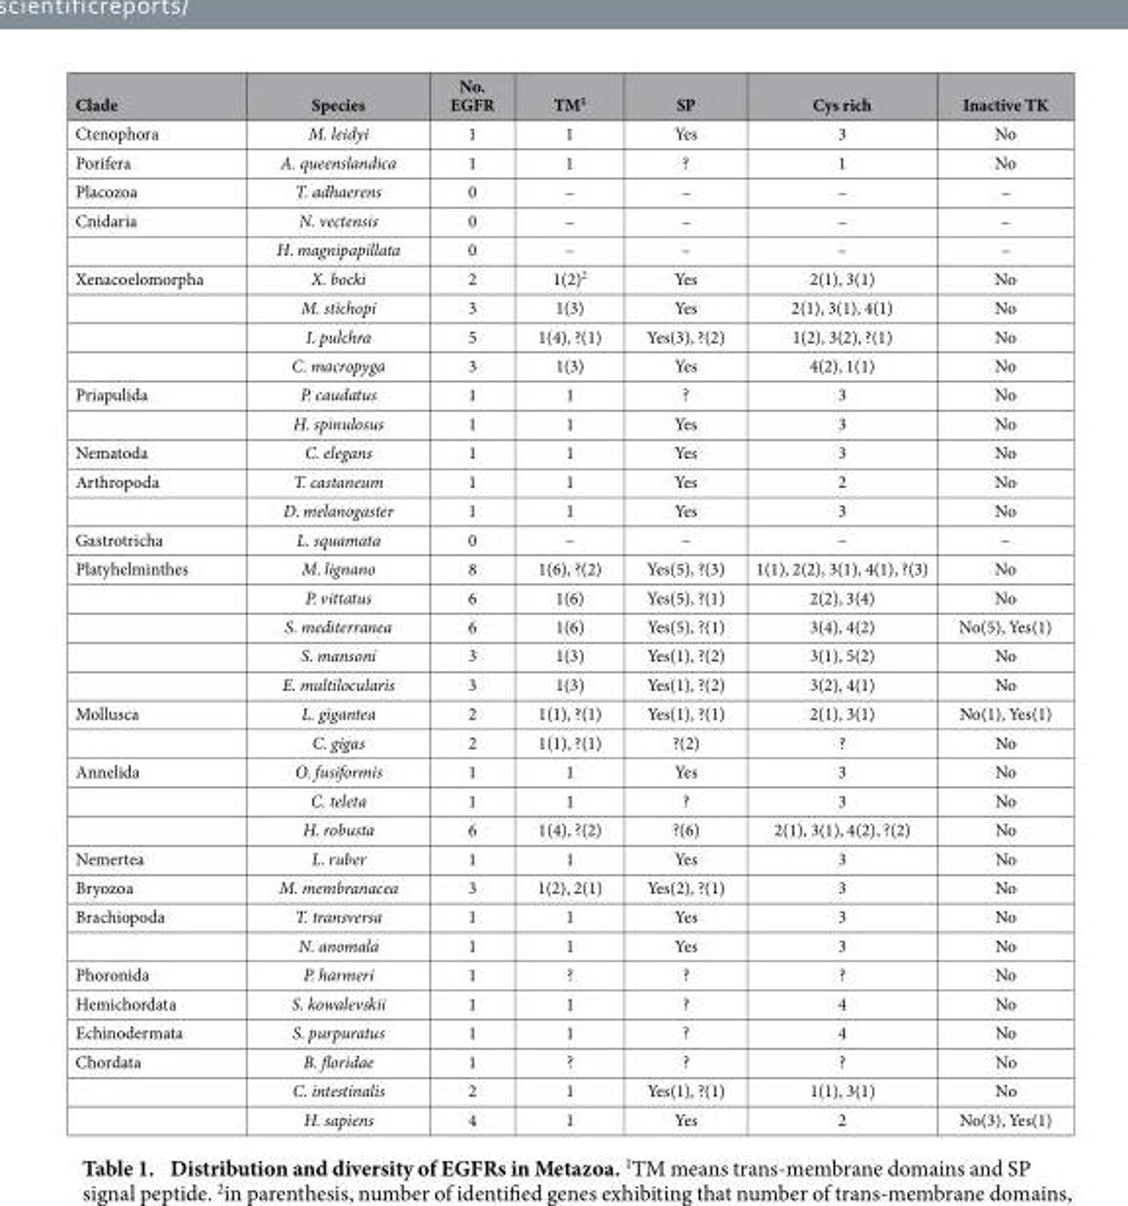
<table><thead><tr><td>Clade</td><td>Species</td><td>No. EGFR</td><td>TM<sup>1</sup></td><td>SP</td><td>Cys rich</td><td>Inactive TK</td></tr></thead><tbody><tr><td>Ctenophora</td><td>M. leidyi</td><td>1</td><td>1</td><td>Yes</td><td>3</td><td>No</td></tr><tr><td>Porifera</td><td>A. queenslandica</td><td>1</td><td>1</td><td>?</td><td>1</td><td>No</td></tr><tr><td>Placozoa</td><td>T. adhaerens</td><td>0</td><td>–</td><td>–</td><td>–</td><td>–</td></tr><tr><td rowspan="2">Cnidaria</td><td>N. vectensis</td><td>0</td><td>–</td><td>–</td><td>–</td><td>–</td></tr><tr><td>H. magnipapillata</td><td>0</td><td>–</td><td>–</td><td>–</td><td>–</td></tr><tr><td rowspan="4">Xenacoelomorpha</td><td>X. bocki</td><td>2</td><td>1(2)<sup>2</sup></td><td>Yes</td><td>2(1), 3(1)</td><td>No</td></tr><tr><td>M. stichopi</td><td>3</td><td>1(3)</td><td>Yes</td><td>2(1), 3(1), 4(1)</td><td>No</td></tr><tr><td>I. pulchra</td><td>5</td><td>1(4), ?(1)</td><td>Yes(3), ?(2)</td><td>1(2), 3(2), ?(1)</td><td>No</td></tr><tr><td>C. macropyga</td><td>3</td><td>1(3)</td><td>Yes</td><td>4(2), 1(1)</td><td>No</td></tr><tr><td rowspan="2">Priapulida</td><td>P. caudatus</td><td>1</td><td>1</td><td>?</td><td>3</td><td>No</td></tr><tr><td>H. spinulosus</td><td>1</td><td>1</td><td>Yes</td><td>3</td><td>No</td></tr><tr><td>Nematoda</td><td>C. elegans</td><td>1</td><td>1</td><td>Yes</td><td>3</td><td>No</td></tr><tr><td rowspan="2">Arthropoda</td><td>T. castaneum</td><td>1</td><td>1</td><td>Yes</td><td>2</td><td>No</td></tr><tr><td>D. melanogaster</td><td>1</td><td>1</td><td>Yes</td><td>3</td><td>No</td></tr><tr><td>Gastrotricha</td><td>L. squamata</td><td>0</td><td>–</td><td>–</td><td>–</td><td>–</td></tr><tr><td rowspan="5">Platyhelminthes</td><td>M. lignano</td><td>8</td><td>1(6), ?(2)</td><td>Yes(5), ?(3)</td><td>1(1), 2(2), 3(1), 4(1), ?(3)</td><td>No</td></tr><tr><td>P. vittatus</td><td>6</td><td>1(6)</td><td>Yes(5), ?(1)</td><td>2(2), 3(4)</td><td>No</td></tr><tr><td>S. mediterranea</td><td>6</td><td>1(6)</td><td>Yes(5), ?(1)</td><td>3(4), 4(2)</td><td>No(5), Yes(1)</td></tr><tr><td>S. mansoni</td><td>3</td><td>1(3)</td><td>Yes(1), ?(2)</td><td>3(1), 5(2)</td><td>No</td></tr><tr><td>E. multilocularis</td><td>3</td><td>1(3)</td><td>Yes(1), ?(2)</td><td>3(2), 4(1)</td><td>No</td></tr><tr><td rowspan="2">Mollusca</td><td>L. gigantea</td><td>2</td><td>1(1), ?(1)</td><td>Yes(1), ?(1)</td><td>2(1), 3(1)</td><td>No(1), Yes(1)</td></tr><tr><td>C. gigas</td><td>2</td><td>1(1), ?(1)</td><td>?(2)</td><td>?</td><td>No</td></tr><tr><td rowspan="3">Annelida</td><td>O. fusiformis</td><td>1</td><td>1</td><td>Yes</td><td>3</td><td>No</td></tr><tr><td>C. teleta</td><td>1</td><td>1</td><td>?</td><td>3</td><td>No</td></tr><tr><td>H. robusta</td><td>6</td><td>1(4), ?(2)</td><td>?(6)</td><td>2(1), 3(1), 4(2), ?(2)</td><td>No</td></tr><tr><td>Nemertea</td><td>L. ruber</td><td>1</td><td>1</td><td>Yes</td><td>3</td><td>No</td></tr><tr><td>Bryozoa</td><td>M. membranacea</td><td>3</td><td>1(2), 2(1)</td><td>Yes(2), ?(1)</td><td>3</td><td>No</td></tr><tr><td rowspan="2">Brachiopoda</td><td>T. transversa</td><td>1</td><td>1</td><td>Yes</td><td>3</td><td>No</td></tr><tr><td>N. anomala</td><td>1</td><td>1</td><td>Yes</td><td>3</td><td>No</td></tr><tr><td>Phoronida</td><td>P. harmeri</td><td>1</td><td>?</td><td>?</td><td>?</td><td>No</td></tr><tr><td>Hemichordata</td><td>S. kowalevskii</td><td>1</td><td>1</td><td>?</td><td>4</td><td>No</td></tr><tr><td>Echinodermata</td><td>S. purpuratus</td><td>1</td><td>1</td><td>?</td><td>4</td><td>No</td></tr><tr><td rowspan="3">Chordata</td><td>B. floridae</td><td>1</td><td>?</td><td>?</td><td>?</td><td>No</td></tr><tr><td>C. intestinalis</td><td>2</td><td>1</td><td>Yes(1), ?(1)</td><td>1(1), 3(1)</td><td>No</td></tr><tr><td>H. sapiens</td><td>4</td><td>1</td><td>Yes</td><td>2</td><td>No(3), Yes(1)</td></tr></tbody></table>